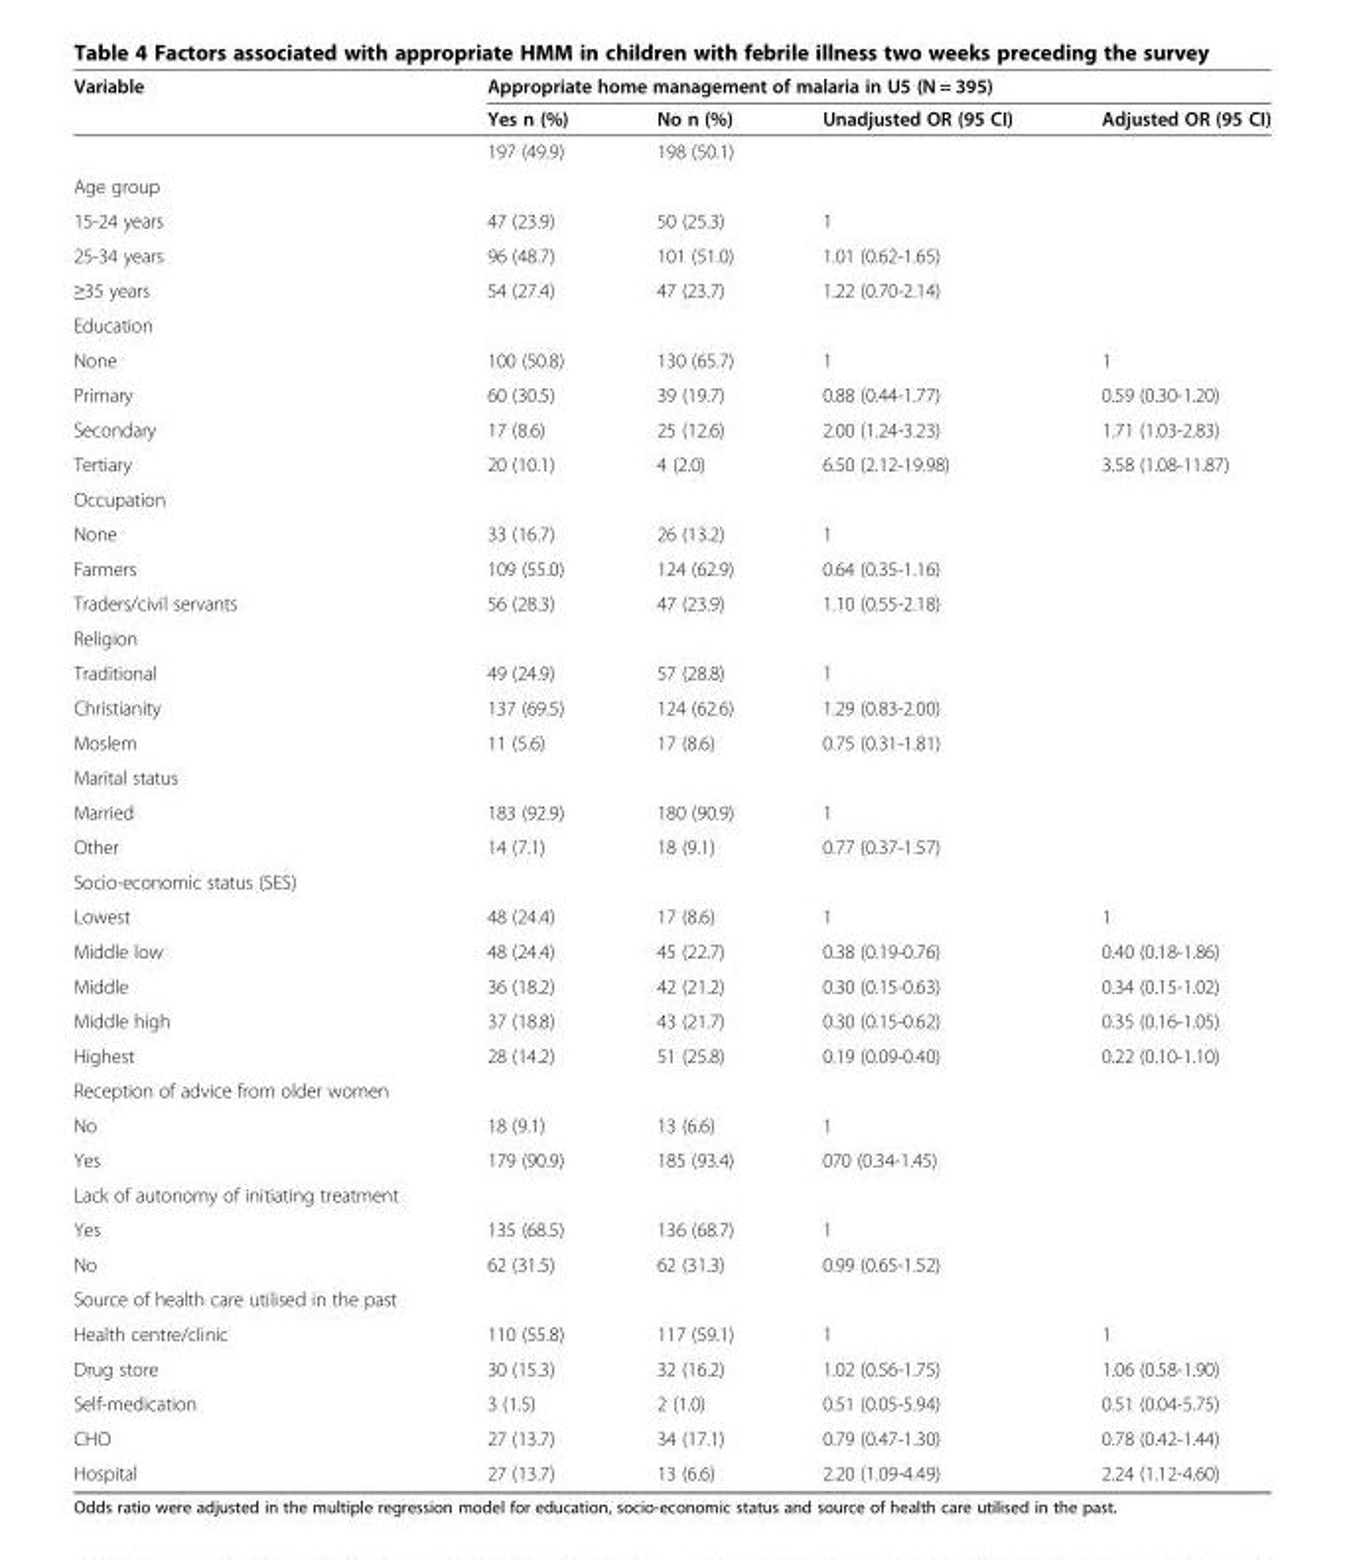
<table><thead><tr><td rowspan="2">Variable</td><td colspan="4">Appropriate home management of malaria in U5 (N = 395)</td></tr><tr><td>Yes n (%)</td><td>No n (%)</td><td>Unadjusted OR (95 CI)</td><td>Adjusted OR (95 CI)</td></tr></thead><tbody><tr><td></td><td>197 (49.9)</td><td>198 (50.1)</td><td></td><td></td></tr><tr><td colspan="5">Age group</td></tr><tr><td>15-24 years</td><td>47 (23.9)</td><td>50 (25.3)</td><td>1</td><td></td></tr><tr><td>25-34 years</td><td>96 (48.7)</td><td>101 (51.0)</td><td>1.01 (0.62-1.65)</td><td></td></tr><tr><td>≥35 years</td><td>54 (27.4)</td><td>47 (23.7)</td><td>1.22 (0.70-2.14)</td><td></td></tr><tr><td colspan="5">Education</td></tr><tr><td>None</td><td>100 (50.8)</td><td>130 (65.7)</td><td>1</td><td>1</td></tr><tr><td>Primary</td><td>60 (30.5)</td><td>39 (19.7)</td><td>0.88 (0.44-1.77)</td><td>0.59 (0.30-1.20)</td></tr><tr><td>Secondary</td><td>17 (8.6)</td><td>25 (12.6)</td><td>2.00 (1.24-3.23)</td><td>1.71 (1.03-2.83)</td></tr><tr><td>Tertiary</td><td>20 (10.1)</td><td>4 (2.0)</td><td>6.50 (2.12-19.98)</td><td>3.58 (1.08-11.87)</td></tr><tr><td colspan="5">Occupation</td></tr><tr><td>None</td><td>33 (16.7)</td><td>26 (13.2)</td><td>1</td><td></td></tr><tr><td>Farmers</td><td>109 (55.0)</td><td>124 (62.9)</td><td>0.64 (0.35-1.16)</td><td></td></tr><tr><td>Traders/civil servants</td><td>56 (28.3)</td><td>47 (23.9)</td><td>1.10 (0.55-2.18)</td><td></td></tr><tr><td colspan="5">Religion</td></tr><tr><td>Traditional</td><td>49 (24.9)</td><td>57 (28.8)</td><td>1</td><td></td></tr><tr><td>Christianity</td><td>137 (69.5)</td><td>124 (62.6)</td><td>1.29 (0.83-2.00)</td><td></td></tr><tr><td>Moslem</td><td>11 (5.6)</td><td>17 (8.6)</td><td>0.75 (0.31-1.81)</td><td></td></tr><tr><td colspan="5">Marital status</td></tr><tr><td>Married</td><td>183 (92.9)</td><td>180 (90.9)</td><td>1</td><td></td></tr><tr><td>Other</td><td>14 (7.1)</td><td>18 (9.1)</td><td>0.77 (0.37-1.57)</td><td></td></tr><tr><td colspan="5">Socio-economic status (SES)</td></tr><tr><td>Lowest</td><td>48 (24.4)</td><td>17 (8.6)</td><td>1</td><td>1</td></tr><tr><td>Middle low</td><td>48 (24.4)</td><td>45 (22.7)</td><td>0.38 (0.19-0.76)</td><td>0.40 (0.18-1.86)</td></tr><tr><td>Middle</td><td>36 (18.2)</td><td>42 (21.2)</td><td>0.30 (0.15-0.63)</td><td>0.34 (0.15-1.02)</td></tr><tr><td>Middle high</td><td>37 (18.8)</td><td>43 (21.7)</td><td>0.30 (0.15-0.62)</td><td>0.35 (0.16-1.05)</td></tr><tr><td>Highest</td><td>28 (14.2)</td><td>51 (25.8)</td><td>0.19 (0.09-0.40)</td><td>0.22 (0.10-1.10)</td></tr><tr><td colspan="5">Reception of advice from older women</td></tr><tr><td>No</td><td>18 (9.1)</td><td>13 (6.6)</td><td>1</td><td></td></tr><tr><td>Yes</td><td>179 (90.9)</td><td>185 (93.4)</td><td>070 (0.34-1.45)</td><td></td></tr><tr><td colspan="5">Lack of autonomy of initiating treatment</td></tr><tr><td>Yes</td><td>135 (68.5)</td><td>136 (68.7)</td><td>1</td><td></td></tr><tr><td>No</td><td>62 (31.5)</td><td>62 (31.3)</td><td>0.99 (0.65-1.52)</td><td></td></tr><tr><td colspan="5">Source of health care utilised in the past</td></tr><tr><td>Health centre/clinic</td><td>110 (55.8)</td><td>117 (59.1)</td><td>1</td><td>1</td></tr><tr><td>Drug store</td><td>30 (15.3)</td><td>32 (16.2)</td><td>1.02 (0.56-1.75)</td><td>1.06 (0.58-1.90)</td></tr><tr><td>Self-medication</td><td>3 (1.5)</td><td>2 (1.0)</td><td>0.51 (0.05-5.94)</td><td>0.51 (0.04-5.75)</td></tr><tr><td>CHO</td><td>27 (13.7)</td><td>34 (17.1)</td><td>0.79 (0.47-1.30)</td><td>0.78 (0.42-1.44)</td></tr><tr><td>Hospital</td><td>27 (13.7)</td><td>13 (6.6)</td><td>2.20 (1.09-4.49)</td><td>2.24 (1.12-4.60)</td></tr></tbody></table>